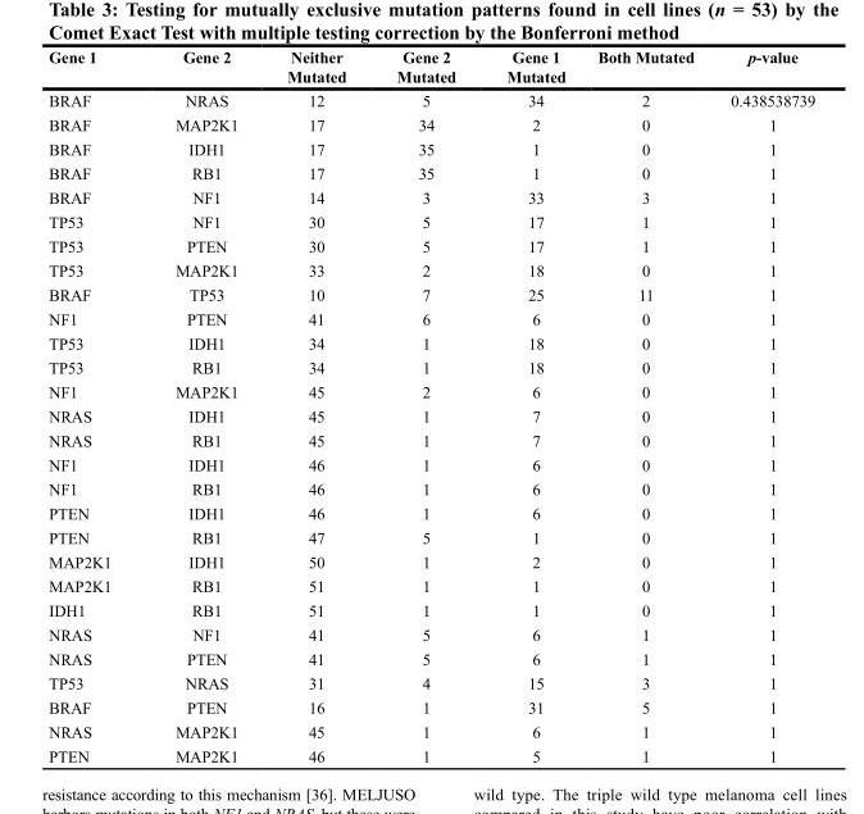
<table><thead><tr><td>Gene 1</td><td>Gene 2</td><td>Neither Mutated</td><td>Gene 2 Mutated</td><td>Gene 1 Mutated</td><td>Both Mutated</td><td>p-value</td></tr></thead><tbody><tr><td>BRAF</td><td>NRAS</td><td>12</td><td>5</td><td>34</td><td>2</td><td>0.438538739</td></tr><tr><td>BRAF</td><td>MAP2K1</td><td>17</td><td>34</td><td>2</td><td>0</td><td>1</td></tr><tr><td>BRAF</td><td>IDH1</td><td>17</td><td>35</td><td>1</td><td>0</td><td>1</td></tr><tr><td>BRAF</td><td>RB1</td><td>17</td><td>35</td><td>1</td><td>0</td><td>1</td></tr><tr><td>BRAF</td><td>NF1</td><td>14</td><td>3</td><td>33</td><td>3</td><td>1</td></tr><tr><td>TP53</td><td>NF1</td><td>30</td><td>5</td><td>17</td><td>1</td><td>1</td></tr><tr><td>TP53</td><td>PTEN</td><td>30</td><td>5</td><td>17</td><td>1</td><td>1</td></tr><tr><td>TP53</td><td>MAP2K1</td><td>33</td><td>2</td><td>18</td><td>0</td><td>1</td></tr><tr><td>BRAF</td><td>TP53</td><td>10</td><td>7</td><td>25</td><td>11</td><td>1</td></tr><tr><td>NF1</td><td>PTEN</td><td>41</td><td>6</td><td>6</td><td>0</td><td>1</td></tr><tr><td>TP53</td><td>IDH1</td><td>34</td><td>1</td><td>18</td><td>0</td><td>1</td></tr><tr><td>TP53</td><td>RB1</td><td>34</td><td>1</td><td>18</td><td>0</td><td>1</td></tr><tr><td>NF1</td><td>MAP2K1</td><td>45</td><td>2</td><td>6</td><td>0</td><td>1</td></tr><tr><td>NRAS</td><td>IDH1</td><td>45</td><td>1</td><td>7</td><td>0</td><td>1</td></tr><tr><td>NRAS</td><td>RB1</td><td>45</td><td>1</td><td>7</td><td>0</td><td>1</td></tr><tr><td>NF1</td><td>IDH1</td><td>46</td><td>1</td><td>6</td><td>0</td><td>1</td></tr><tr><td>NF1</td><td>RB1</td><td>46</td><td>1</td><td>6</td><td>0</td><td>1</td></tr><tr><td>PTEN</td><td>IDH1</td><td>46</td><td>1</td><td>6</td><td>0</td><td>1</td></tr><tr><td>PTEN</td><td>RB1</td><td>47</td><td>5</td><td>1</td><td>0</td><td>1</td></tr><tr><td>MAP2K1</td><td>IDH1</td><td>50</td><td>1</td><td>2</td><td>0</td><td>1</td></tr><tr><td>MAP2K1</td><td>RB1</td><td>51</td><td>1</td><td>1</td><td>0</td><td>1</td></tr><tr><td>IDH1</td><td>RB1</td><td>51</td><td>1</td><td>1</td><td>0</td><td>1</td></tr><tr><td>NRAS</td><td>NF1</td><td>41</td><td>5</td><td>6</td><td>1</td><td>1</td></tr><tr><td>NRAS</td><td>PTEN</td><td>41</td><td>5</td><td>6</td><td>1</td><td>1</td></tr><tr><td>TP53</td><td>NRAS</td><td>31</td><td>4</td><td>15</td><td>3</td><td>1</td></tr><tr><td>BRAF</td><td>PTEN</td><td>16</td><td>1</td><td>31</td><td>5</td><td>1</td></tr><tr><td>NRAS</td><td>MAP2K1</td><td>45</td><td>1</td><td>6</td><td>1</td><td>1</td></tr><tr><td>PTEN</td><td>MAP2K1</td><td>46</td><td>1</td><td>5</td><td>1</td><td>1</td></tr></tbody></table>